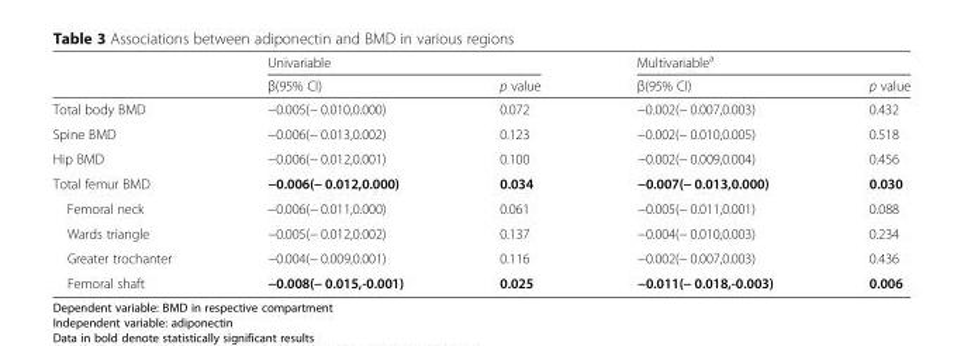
<table><thead><tr><td rowspan="2"></td><td colspan="2">Univariable</td><td colspan="2">Multivariable<sup>a</sup></td></tr><tr><td>β(95% CI)</td><td>p value</td><td>β(95% CI)</td><td>p value</td></tr></thead><tbody><tr><td>Total body BMD</td><td>−0.005(− 0.010,0.000)</td><td>0.072</td><td>−0.002(− 0.007,0.003)</td><td>0.432</td></tr><tr><td>Spine BMD</td><td>−0.006(− 0.013,0.002)</td><td>0.123</td><td>−0.002(− 0.010,0.005)</td><td>0.518</td></tr><tr><td>Hip BMD</td><td>−0.006(− 0.012,0.001)</td><td>0.100</td><td>−0.002(− 0.009,0.004)</td><td>0.456</td></tr><tr><td>Total femur BMD</td><td>−0.006(− 0.012,0.000)</td><td>0.034</td><td>−0.007(− 0.013,0.000)</td><td>0.030</td></tr><tr><td>Femoral neck</td><td>−0.006(− 0.011,0.000)</td><td>0.061</td><td>−0.005(− 0.011,0.001)</td><td>0.088</td></tr><tr><td>Wards triangle</td><td>−0.005(− 0.012,0.002)</td><td>0.137</td><td>−0.004(− 0.010,0.003)</td><td>0.234</td></tr><tr><td>Greater trochanter</td><td>−0.004(− 0.009,0.001)</td><td>0.116</td><td>−0.002(− 0.007,0.003)</td><td>0.436</td></tr><tr><td>Femoral shaft</td><td>−0.008(− 0.015,-0.001)</td><td>0.025</td><td>−0.011(− 0.018,-0.003)</td><td>0.006</td></tr></tbody></table>